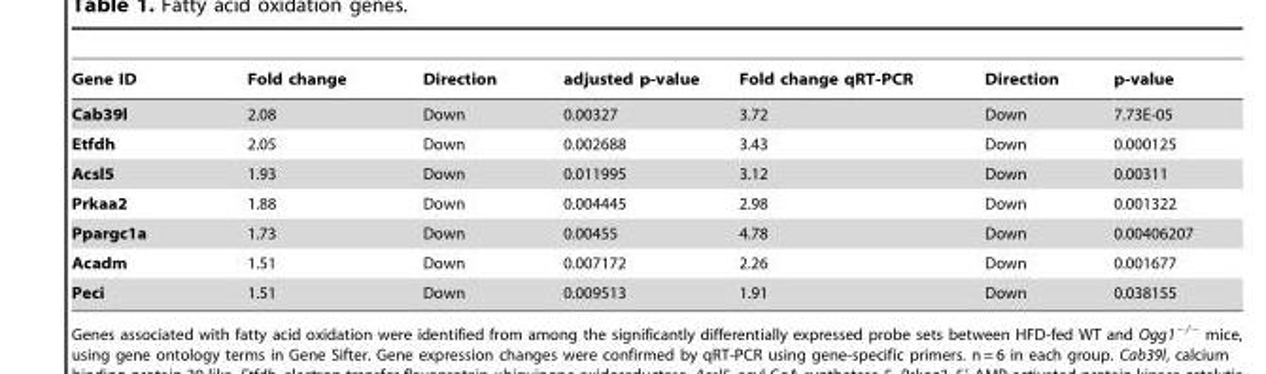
<table><thead><tr><td>Gene ID</td><td>Fold change</td><td>Direction</td><td>adjusted p-value</td><td>Fold change qRT-PCR</td><td>Direction</td><td>p-value</td></tr></thead><tbody><tr><td>Cab39l</td><td>2.08</td><td>Down</td><td>0.00327</td><td>3.72</td><td>Down</td><td>7.73E-05</td></tr><tr><td>Etfdh</td><td>2.05</td><td>Down</td><td>0.002688</td><td>3.43</td><td>Down</td><td>0.000125</td></tr><tr><td>Acsl5</td><td>1.93</td><td>Down</td><td>0.011995</td><td>3.12</td><td>Down</td><td>0.00311</td></tr><tr><td>Prkaa2</td><td>1.88</td><td>Down</td><td>0.004445</td><td>2.98</td><td>Down</td><td>0.001322</td></tr><tr><td>Ppargc1a</td><td>1.73</td><td>Down</td><td>0.00455</td><td>4.78</td><td>Down</td><td>0.00406207</td></tr><tr><td>Acadm</td><td>1.51</td><td>Down</td><td>0.007172</td><td>2.26</td><td>Down</td><td>0.001677</td></tr><tr><td>Peci</td><td>1.51</td><td>Down</td><td>0.009513</td><td>1.91</td><td>Down</td><td>0.038155</td></tr></tbody></table>